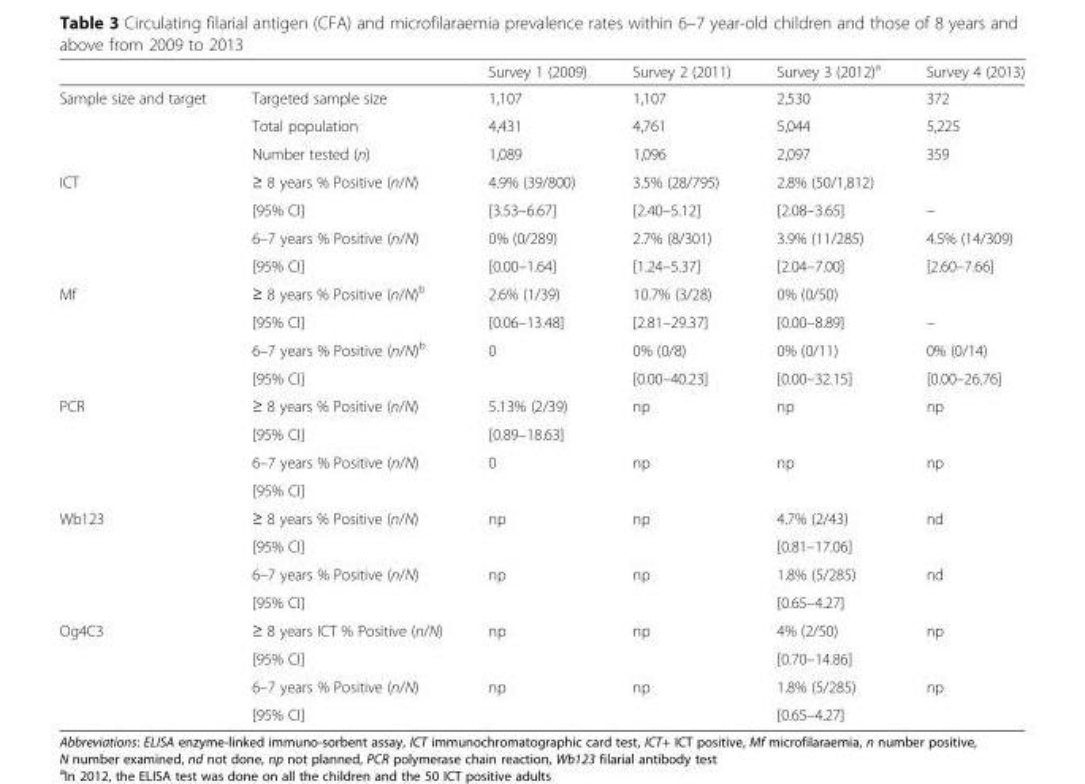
<table><thead><tr><td></td><td></td><td>Survey 1 (2009)</td><td>Survey 2 (2011)</td><td>Survey 3 (2012)<sup>a</sup></td><td>Survey 4 (2013)</td></tr></thead><tbody><tr><td rowspan="3">Sample size and target</td><td>Targeted sample size</td><td>1,107</td><td>1,107</td><td>2,530</td><td>372</td></tr><tr><td>Total population</td><td>4,431</td><td>4,761</td><td>5,044</td><td>5,225</td></tr><tr><td>Number tested (n)</td><td>1,089</td><td>1,096</td><td>2,097</td><td>359</td></tr><tr><td rowspan="4">ICT</td><td>≥ 8 years % Positive (n/N)</td><td>4.9% (39/800)</td><td>3.5% (28/795)</td><td>2.8% (50/1,812)</td><td></td></tr><tr><td>[95% CI]</td><td>[3.53–6.67]</td><td>[2.40–5.12]</td><td>[2.08–3.65]</td><td>–</td></tr><tr><td>6–7 years % Positive (n/N)</td><td>0% (0/289)</td><td>2.7% (8/301)</td><td>3.9% (11/285)</td><td>4.5% (14/309)</td></tr><tr><td>[95% CI]</td><td>[0.00–1.64]</td><td>[1.24–5.37]</td><td>[2.04–7.00]</td><td>[2.60–7.66]</td></tr><tr><td rowspan="4">Mf</td><td>≥ 8 years % Positive (n/N)<sup>b</sup></td><td>2.6% (1/39)</td><td>10.7% (3/28)</td><td>0% (0/50)</td><td></td></tr><tr><td>[95% CI]</td><td>[0.06–13.48]</td><td>[2.81–29.37]</td><td>[0.00–8.89]</td><td>–</td></tr><tr><td>6–7 years % Positive (n/N)<sup>b</sup></td><td>0</td><td>0% (0/8)</td><td>0% (0/11)</td><td>0% (0/14)</td></tr><tr><td>[95% CI]</td><td></td><td>[0.00–40.23]</td><td>[0.00–32.15]</td><td>[0.00–26.76]</td></tr><tr><td rowspan="4">PCR</td><td>≥ 8 years % Positive (n/N)</td><td>5.13% (2/39)</td><td>np</td><td>np</td><td>np</td></tr><tr><td>[95% CI]</td><td>[0.89–18.63]</td><td></td><td></td><td></td></tr><tr><td>6–7 years % Positive (n/N)</td><td>0</td><td>np</td><td>np</td><td>np</td></tr><tr><td>[95% CI]</td><td></td><td></td><td></td><td></td></tr><tr><td rowspan="4">Wb123</td><td>≥ 8 years % Positive (n/N)</td><td>np</td><td>np</td><td>4.7% (2/43)</td><td>nd</td></tr><tr><td>[95% CI]</td><td></td><td></td><td>[0.81–17.06]</td><td></td></tr><tr><td>6–7 years % Positive (n/N)</td><td>np</td><td>np</td><td>1.8% (5/285)</td><td>nd</td></tr><tr><td>[95% CI]</td><td></td><td></td><td>[0.65–4.27]</td><td></td></tr><tr><td rowspan="4">Og4C3</td><td>≥ 8 years ICT % Positive (n/N)</td><td>np</td><td>np</td><td>4% (2/50)</td><td>np</td></tr><tr><td>[95% CI]</td><td></td><td></td><td>[0.70–14.86]</td><td></td></tr><tr><td>6–7 years % Positive (n/N)</td><td>np</td><td>np</td><td>1.8% (5/285)</td><td>np</td></tr><tr><td>[95% CI]</td><td></td><td></td><td>[0.65–4.27]</td><td></td></tr></tbody></table>